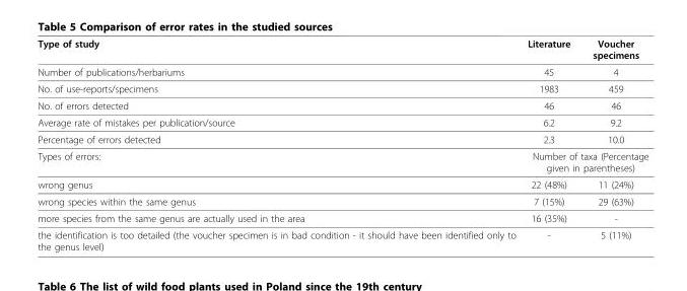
<table><thead><tr><td>Type of study</td><td>Literature</td><td>Voucher specimens</td></tr></thead><tbody><tr><td>Number of publications/herbariums</td><td>45</td><td>4</td></tr><tr><td>No. of use-reports/specimens</td><td>1983</td><td>459</td></tr><tr><td>No. of errors detected</td><td>46</td><td>46</td></tr><tr><td>Average rate of mistakes per publication/source</td><td>6.2</td><td>9.2</td></tr><tr><td>Percentage of errors detected</td><td>2.3</td><td>10.0</td></tr><tr><td>Types of errors:</td><td colspan="2">Number of taxa (Percentage given in parentheses)</td></tr><tr><td>wrong genus</td><td>22 (48%)</td><td>11 (24%)</td></tr><tr><td>wrong species within the same genus</td><td>7 (15%)</td><td>29 (63%)</td></tr><tr><td>more species from the same genus are actually used in the area</td><td>16 (35%)</td><td>-</td></tr><tr><td>the identification is too detailed (the voucher specimen is in bad condition - it should have been identified only to the genus level)</td><td>-</td><td>5 (11%)</td></tr></tbody></table>